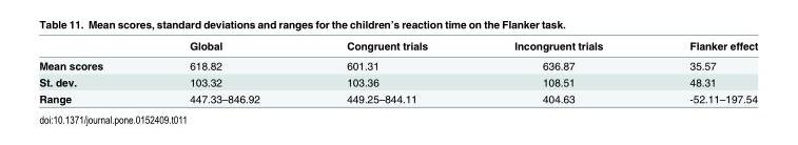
<table><thead><tr><td></td><td>Global</td><td>Congruent trials</td><td>Incongruent trials</td><td>Flanker effect</td></tr></thead><tbody><tr><td>Mean scores</td><td>618.82</td><td>601.31</td><td>636.87</td><td>35.57</td></tr><tr><td>St. dev.</td><td>103.32</td><td>103.36</td><td>108.51</td><td>48.31</td></tr><tr><td>Range</td><td>447.33–846.92</td><td>449.25–844.11</td><td>404.63</td><td>-52.11–197.54</td></tr></tbody></table>